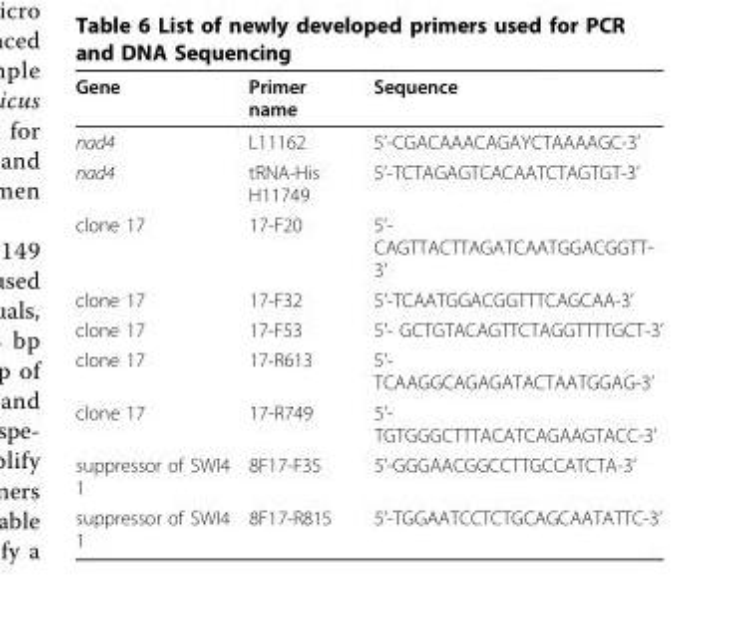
<table><thead><tr><td>Gene</td><td>Primer name</td><td>Sequence</td></tr></thead><tbody><tr><td>nad4</td><td>L11162</td><td>5’-CGACAAACAGAYCTAAAAGC-3’</td></tr><tr><td>nad4</td><td>tRNA-His H11749</td><td>5’-TCTAGAGTCACAATCTAGTGT-3’</td></tr><tr><td>clone 17</td><td>17-F20</td><td>5’- CAGTTACTTAGATCAATGGACGGTT- 3’</td></tr><tr><td>clone 17</td><td>17-F32</td><td>5’-TCAATGGACGGTTTCAGCAA-3’</td></tr><tr><td>clone 17</td><td>17-F53</td><td>5’- GCTGTACAGTTCTAGGTTTTGCT-3’</td></tr><tr><td>clone 17</td><td>17-R613</td><td>5’- TCAAGGCAGAGATACTAATGGAG-3’</td></tr><tr><td>clone 17</td><td>17-R749</td><td>5’- TGTGGGCTTTACATCAGAAGTACC-3’</td></tr><tr><td>suppressor of SWI4 1</td><td>8F17-F35</td><td>5’-GGGAACGGCCTTGCCATCTA-3’</td></tr><tr><td>suppressor of SWI4 1</td><td>8F17-R815</td><td>5’-TGGAATCCTCTGCAGCAATATTC-3’</td></tr></tbody></table>